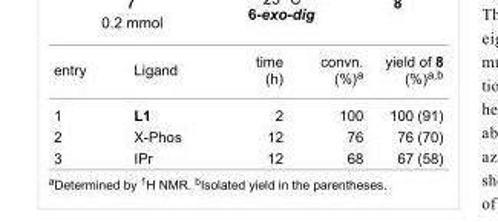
<table><tbody><tr><td>entry</td><td>Ligand</td><td>time (h)</td><td>convn. (%)<sup>a</sup></td><td>yield of 8 (%)<sup>a,b</sup></td></tr><tr><td>1</td><td>L1</td><td>2</td><td>100</td><td>100 (91)</td></tr><tr><td>2</td><td>X-Phos</td><td>12</td><td>76</td><td>76 (70)</td></tr><tr><td>3</td><td>IPr</td><td>12</td><td>68</td><td>67 (58)</td></tr></tbody></table>